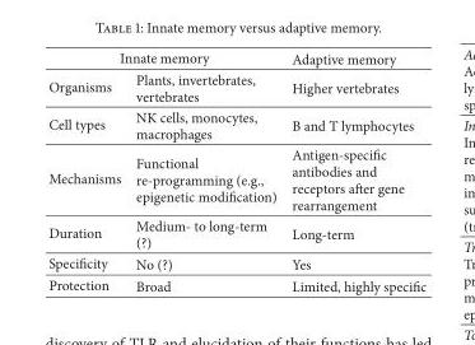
<table><thead><tr><td colspan="2">Innate memory</td><td rowspan="2">Adaptive memory Higher vertebrates</td></tr><tr><td>Organisms</td><td>Plants, invertebrates, vertebrates</td></tr></thead><tbody><tr><td>Cell types</td><td>NK cells, monocytes, macrophages</td><td>B and T lymphocytes</td></tr><tr><td>Mechanisms</td><td>Functional re-programming (e.g., epigenetic modification)</td><td>Antigen-specific antibodies and receptors after gene rearrangement</td></tr><tr><td>Duration</td><td>Medium- to long-term (?)</td><td>Long-term</td></tr><tr><td>Specificity</td><td>No (?)</td><td>Yes</td></tr><tr><td>Protection</td><td>Broad</td><td>Limited, highly specific</td></tr></tbody></table>